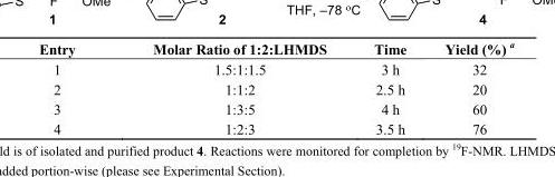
<table><thead><tr><td>Entry</td><td>Molar Ratio of 1:2:LHMDS</td><td>Time</td><td>Yield (%) <sup>a</sup></td></tr></thead><tbody><tr><td>1</td><td>1.5:1:1.5</td><td>3 h</td><td>32</td></tr><tr><td>2</td><td>1:1:2</td><td>2.5 h</td><td>20</td></tr><tr><td>3</td><td>1:3:5</td><td>4 h</td><td>60</td></tr><tr><td>4</td><td>1:2:3</td><td>3.5 h</td><td>76</td></tr></tbody></table>